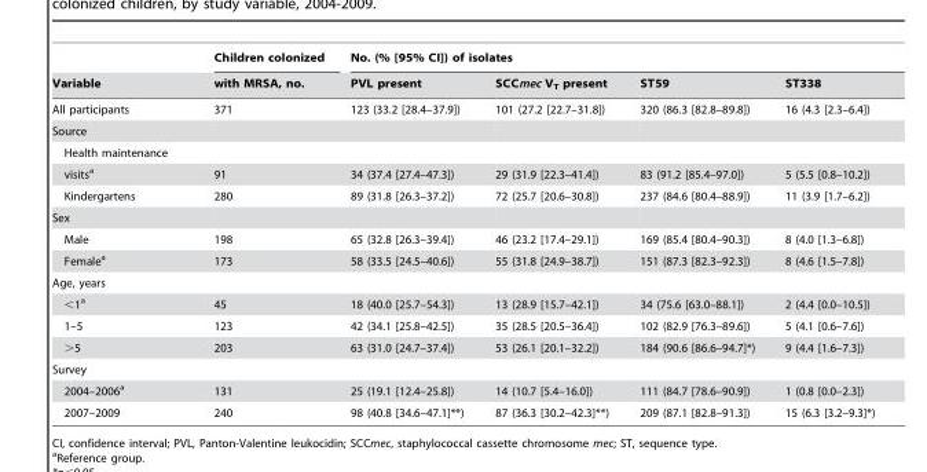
<table><thead><tr><td rowspan="2">Variable</td><td rowspan="2">Children colonized with MRSA, no.</td><td colspan="4">No. (% [95% CI]) of isolates</td></tr><tr><td>PVL present</td><td>SCCmec V<sub>T</sub> present</td><td>ST59</td><td>ST338</td></tr></thead><tbody><tr><td>All participants</td><td>371</td><td>123 (33.2 [28.4–37.9])</td><td>101 (27.2 [22.7–31.8])</td><td>320 (86.3 [82.8–89.8])</td><td>16 (4.3 [2.3–6.4])</td></tr><tr><td colspan="6">Source</td></tr><tr><td colspan="6">Health maintenance</td></tr><tr><td>visits<sup>a</sup></td><td>91</td><td>34 (37.4 [27.4–47.3])</td><td>29 (31.9 [22.3–41.4])</td><td>83 (91.2 [85.4–97.0])</td><td>5 (5.5 [0.8–10.2])</td></tr><tr><td>Kindergartens</td><td>280</td><td>89 (31.8 [26.3–37.2])</td><td>72 (25.7 [20.6–30.8])</td><td>237 (84.6 [80.4–88.9])</td><td>11 (3.9 [1.7–6.2])</td></tr><tr><td colspan="6">Sex</td></tr><tr><td>Male</td><td>198</td><td>65 (32.8 [26.3–39.4])</td><td>46 (23.2 [17.4–29.1])</td><td>169 (85.4 [80.4–90.3])</td><td>8 (4.0 [1.3–6.8])</td></tr><tr><td>Female<sup>a</sup></td><td>173</td><td>58 (33.5 [24.5–40.6])</td><td>55 (31.8 [24.9–38.7])</td><td>151 (87.3 [82.3–92.3])</td><td>8 (4.6 [1.5–7.8])</td></tr><tr><td colspan="6">Age, years</td></tr><tr><td>&lt;1<sup>a</sup></td><td>45</td><td>18 (40.0 [25.7–54.3])</td><td>13 (28.9 [15.7–42.1])</td><td>34 (75.6 [63.0–88.1])</td><td>2 (4.4 [0.0–10.5])</td></tr><tr><td>1–5</td><td>123</td><td>42 (34.1 [25.8–42.5])</td><td>35 (28.5 [20.5–36.4])</td><td>102 (82.9 [76.3–89.6])</td><td>5 (4.1 [0.6–7.6])</td></tr><tr><td>&gt;5</td><td>203</td><td>63 (31.0 [24.7–37.4])</td><td>53 (26.1 [20.1–32.2])</td><td>184 (90.6 [86.6–94.7]*)</td><td>9 (4.4 [1.6–7.3])</td></tr><tr><td colspan="6">Survey</td></tr><tr><td>2004–2006<sup>a</sup></td><td>131</td><td>25 (19.1 [12.4–25.8])</td><td>14 (10.7 [5.4–16.0])</td><td>111 (84.7 [78.6–90.9])</td><td>1 (0.8 [0.0–2.3])</td></tr><tr><td>2007–2009</td><td>240</td><td>98 (40.8 [34.6–47.1]**)</td><td>87 (36.3 [30.2–42.3]**)</td><td>209 (87.1 [82.8–91.3])</td><td>15 (6.3 [3.2–9.3]*)</td></tr></tbody></table>